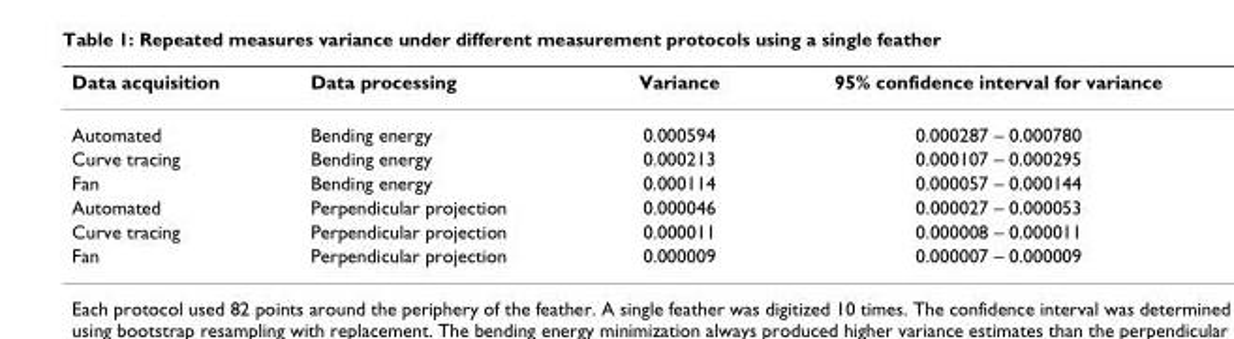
<table><thead><tr><td>Data acquisition</td><td>Data processing</td><td>Variance</td><td>95% confidence interval for variance</td></tr></thead><tbody><tr><td>Automated</td><td>Bending energy</td><td>0.000594</td><td>0.000287 – 0.000780</td></tr><tr><td>Curve tracing</td><td>Bending energy</td><td>0.000213</td><td>0.000107 – 0.000295</td></tr><tr><td>Fan</td><td>Bending energy</td><td>0.000114</td><td>0.000057 – 0.000144</td></tr><tr><td>Automated</td><td>Perpendicular projection</td><td>0.000046</td><td>0.000027 – 0.000053</td></tr><tr><td>Curve tracing</td><td>Perpendicular projection</td><td>0.000011</td><td>0.000008 – 0.000011</td></tr><tr><td>Fan</td><td>Perpendicular projection</td><td>0.000009</td><td>0.000007 – 0.000009</td></tr></tbody></table>